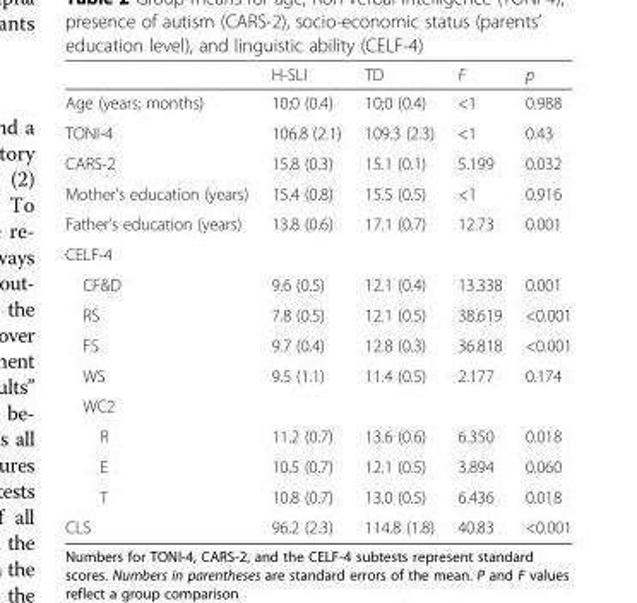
<table><thead><tr><td></td><td>H-SLI</td><td>TD</td><td>F</td><td>p</td></tr></thead><tbody><tr><td>Age (years; months)</td><td>10;0 (0.4)</td><td>10;0 (0.4)</td><td>&lt;1</td><td>0.988</td></tr><tr><td>TONI-4</td><td>106.8 (2.1)</td><td>109.3 (2.3)</td><td>&lt;1</td><td>0.43</td></tr><tr><td>CARS-2</td><td>15.8 (0.3)</td><td>15.1 (0.1)</td><td>5.199</td><td>0.032</td></tr><tr><td>Mother’s education (years)</td><td>15.4 (0.8)</td><td>15.5 (0.5)</td><td>&lt;1</td><td>0.916</td></tr><tr><td>Father’s education (years)</td><td>13.8 (0.6)</td><td>17.1 (0.7)</td><td>12.73</td><td>0.001</td></tr><tr><td colspan="5">CELF-4</td></tr><tr><td>CF&amp;D</td><td>9.6 (0.5)</td><td>12.1 (0.4)</td><td>13.338</td><td>0.001</td></tr><tr><td>RS</td><td>7.8 (0.5)</td><td>12.1 (0.5)</td><td>38.619</td><td>&lt;0.001</td></tr><tr><td>FS</td><td>9.7 (0.4)</td><td>12.8 (0.3)</td><td>36.818</td><td>&lt;0.001</td></tr><tr><td>WS</td><td>9.5 (1.1)</td><td>11.4 (0.5)</td><td>2.177</td><td>0.174</td></tr><tr><td colspan="5">WC2</td></tr><tr><td>R</td><td>11.2 (0.7)</td><td>13.6 (0.6)</td><td>6.350</td><td>0.018</td></tr><tr><td>E</td><td>10.5 (0.7)</td><td>12.1 (0.5)</td><td>3.894</td><td>0.060</td></tr><tr><td>T</td><td>10.8 (0.7)</td><td>13.0 (0.5)</td><td>6.436</td><td>0.018</td></tr><tr><td>CLS</td><td>96.2 (2.3)</td><td>114.8 (1.8)</td><td>40.83</td><td>&lt;0.001</td></tr></tbody></table>